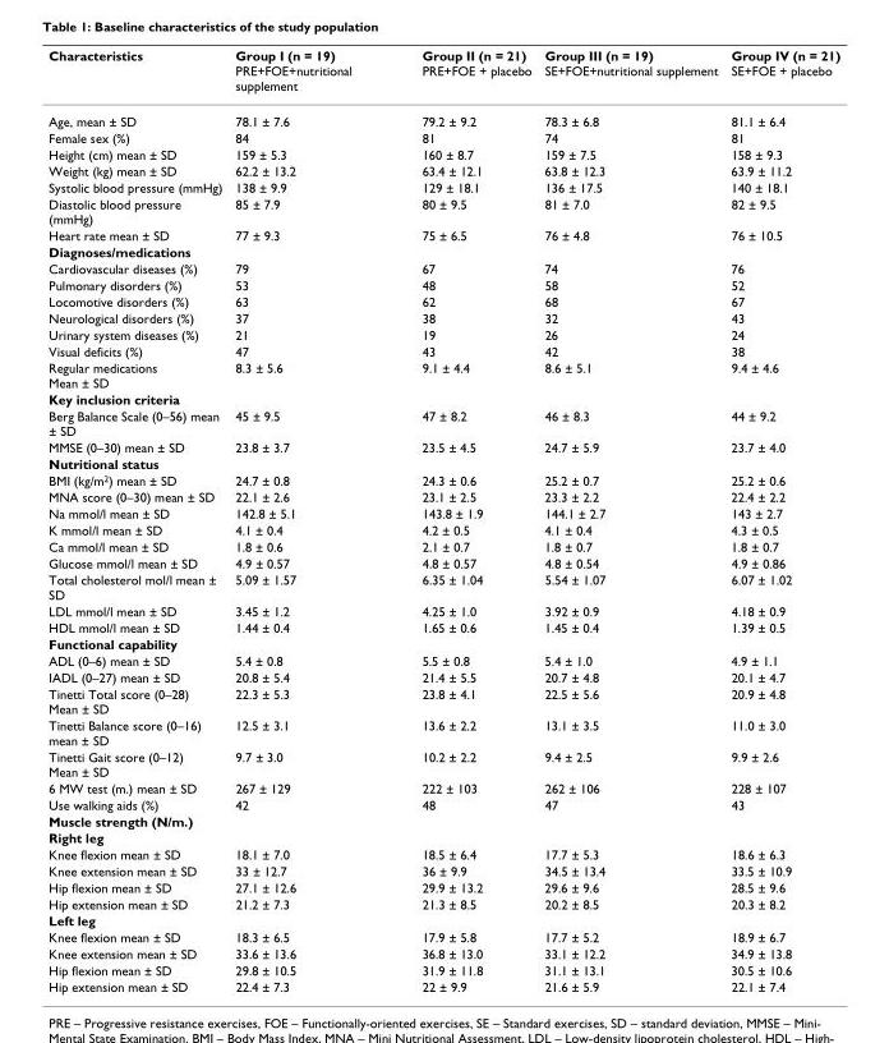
<table><thead><tr><td>Characteristics</td><td>Group I (n = 19) PRE+FOE+nutritional supplement</td><td>Group II (n = 21) PRE+FOE + placebo</td><td>Group III (n = 19) SE+FOE+nutritional supplement</td><td>Group IV (n = 21) SE+FOE + placebo</td></tr></thead><tbody><tr><td>Age, mean ± SD</td><td>78.1 ± 7.6</td><td>79.2 ± 9.2</td><td>78.3 ± 6.8</td><td>81.1 ± 6.4</td></tr><tr><td>Female sex (%)</td><td>84</td><td>81</td><td>74</td><td>81</td></tr><tr><td>Height (cm) mean ± SD</td><td>159 ± 5.3</td><td>160 ± 8.7</td><td>159 ± 7.5</td><td>158 ± 9.3</td></tr><tr><td>Weight (kg) mean ± SD</td><td>62.2 ± 13.2</td><td>63.4 ± 12.1</td><td>63.8 ± 12.3</td><td>63.9 ± 11.2</td></tr><tr><td>Systolic blood pressure (mmHg)</td><td>138 ± 9.9</td><td>129 ± 18.1</td><td>136 ± 17.5</td><td>140 ± 18.1</td></tr><tr><td>Diastolic blood pressure (mmHg)</td><td>85 ± 7.9</td><td>80 ± 9.5</td><td>81 ± 7.0</td><td>82 ± 9.5</td></tr><tr><td>Heart rate mean ± SD</td><td>77 ± 9.3</td><td>75 ± 6.5</td><td>76 ± 4.8</td><td>76 ± 10.5</td></tr><tr><td colspan="5">Diagnoses/medications</td></tr><tr><td>Cardiovascular diseases (%)</td><td>79</td><td>67</td><td>74</td><td>76</td></tr><tr><td>Pulmonary disorders (%)</td><td>53</td><td>48</td><td>58</td><td>52</td></tr><tr><td>Locomotive disorders (%)</td><td>63</td><td>62</td><td>68</td><td>67</td></tr><tr><td>Neurological disorders (%)</td><td>37</td><td>38</td><td>32</td><td>43</td></tr><tr><td>Urinary system diseases (%)</td><td>21</td><td>19</td><td>26</td><td>24</td></tr><tr><td>Visual deficits (%)</td><td>47</td><td>43</td><td>42</td><td>38</td></tr><tr><td>Regular medications Mean ± SD</td><td>8.3 ± 5.6</td><td>9.1 ± 4.4</td><td>8.6 ± 5.1</td><td>9.4 ± 4.6</td></tr><tr><td colspan="5">Key inclusion criteria</td></tr><tr><td>Berg Balance Scale (0–56) mean ± SD</td><td>45 ± 9.5</td><td>47 ± 8.2</td><td>46 ± 8.3</td><td>44 ± 9.2</td></tr><tr><td>MMSE (0–30) mean ± SD</td><td>23.8 ± 3.7</td><td>23.5 ± 4.5</td><td>24.7 ± 5.9</td><td>23.7 ± 4.0</td></tr><tr><td colspan="5">Nutritional status</td></tr><tr><td>BMI (kg/m<sup>2</sup>) mean ± SD</td><td>24.7 ± 0.8</td><td>24.3 ± 0.6</td><td>25.2 ± 0.7</td><td>25.2 ± 0.6</td></tr><tr><td>MNA score (0–30) mean ± SD</td><td>22.1 ± 2.6</td><td>23.1 ± 2.5</td><td>23.3 ± 2.2</td><td>22.4 ± 2.2</td></tr><tr><td>Na mmol/l mean ± SD</td><td>142.8 ± 5.1</td><td>143.8 ± 1.9</td><td>144.1 ± 2.7</td><td>143 ± 2.7</td></tr><tr><td>K mmol/l mean ± SD</td><td>4.1 ± 0.4</td><td>4.2 ± 0.5</td><td>4.1 ± 0.4</td><td>4.3 ± 0.5</td></tr><tr><td>Ca mmol/l mean ± SD</td><td>1.8 ± 0.6</td><td>2.1 ± 0.7</td><td>1.8 ± 0.7</td><td>1.8 ± 0.7</td></tr><tr><td>Glucose mmol/l mean ± SD</td><td>4.9 ± 0.57</td><td>4.8 ± 0.57</td><td>4.8 ± 0.54</td><td>4.9 ± 0.86</td></tr><tr><td>Total cholesterol mol/l mean ± SD</td><td>5.09 ± 1.57</td><td>6.35 ± 1.04</td><td>5.54 ± 1.07</td><td>6.07 ± 1.02</td></tr><tr><td>LDL mmol/l mean ± SD</td><td>3.45 ± 1.2</td><td>4.25 ± 1.0</td><td>3.92 ± 0.9</td><td>4.18 ± 0.9</td></tr><tr><td>HDL mmol/l mean ± SD</td><td>1.44 ± 0.4</td><td>1.65 ± 0.6</td><td>1.45 ± 0.4</td><td>1.39 ± 0.5</td></tr><tr><td colspan="5">Functional capability</td></tr><tr><td>ADL (0–6) mean ± SD</td><td>5.4 ± 0.8</td><td>5.5 ± 0.8</td><td>5.4 ± 1.0</td><td>4.9 ± 1.1</td></tr><tr><td>IADL (0–27) mean ± SD</td><td>20.8 ± 5.4</td><td>21.4 ± 5.5</td><td>20.7 ± 4.8</td><td>20.1 ± 4.7</td></tr><tr><td>Tinetti Total score (0–28) Mean ± SD</td><td>22.3 ± 5.3</td><td>23.8 ± 4.1</td><td>22.5 ± 5.6</td><td>20.9 ± 4.8</td></tr><tr><td>Tinetti Balance score (0–16) mean ± SD</td><td>12.5 ± 3.1</td><td>13.6 ± 2.2</td><td>13.1 ± 3.5</td><td>11.0 ± 3.0</td></tr><tr><td>Tinetti Gait score (0–12) Mean ± SD</td><td>9.7 ± 3.0</td><td>10.2 ± 2.2</td><td>9.4 ± 2.5</td><td>9.9 ± 2.6</td></tr><tr><td>6 MW test (m.) mean ± SD</td><td>267 ± 129</td><td>222 ± 103</td><td>262 ± 106</td><td>228 ± 107</td></tr><tr><td>Use walking aids (%)</td><td>42</td><td>48</td><td>47</td><td>43</td></tr><tr><td colspan="5">Muscle strength (N/m.)</td></tr><tr><td colspan="5">Right leg</td></tr><tr><td>Knee flexion mean ± SD</td><td>18.1 ± 7.0</td><td>18.5 ± 6.4</td><td>17.7 ± 5.3</td><td>18.6 ± 6.3</td></tr><tr><td>Knee extension mean ± SD</td><td>33 ± 12.7</td><td>36 ± 9.9</td><td>34.5 ± 13.4</td><td>33.5 ± 10.9</td></tr><tr><td>Hip flexion mean ± SD</td><td>27.1 ± 12.6</td><td>29.9 ± 13.2</td><td>29.6 ± 9.6</td><td>28.5 ± 9.6</td></tr><tr><td>Hip extension mean ± SD</td><td>21.2 ± 7.3</td><td>21.3 ± 8.5</td><td>20.2 ± 8.5</td><td>20.3 ± 8.2</td></tr><tr><td colspan="5">Left leg</td></tr><tr><td>Knee flexion mean ± SD</td><td>18.3 ± 6.5</td><td>17.9 ± 5.8</td><td>17.7 ± 5.2</td><td>18.9 ± 6.7</td></tr><tr><td>Knee extension mean ± SD</td><td>33.6 ± 13.6</td><td>36.8 ± 13.0</td><td>33.1 ± 12.2</td><td>34.9 ± 13.8</td></tr><tr><td>Hip flexion mean ± SD</td><td>29.8 ± 10.5</td><td>31.9 ± 11.8</td><td>31.1 ± 13.1</td><td>30.5 ± 10.6</td></tr><tr><td>Hip extension mean ± SD</td><td>22.4 ± 7.3</td><td>22 ± 9.9</td><td>21.6 ± 5.9</td><td>22.1 ± 7.4</td></tr></tbody></table>